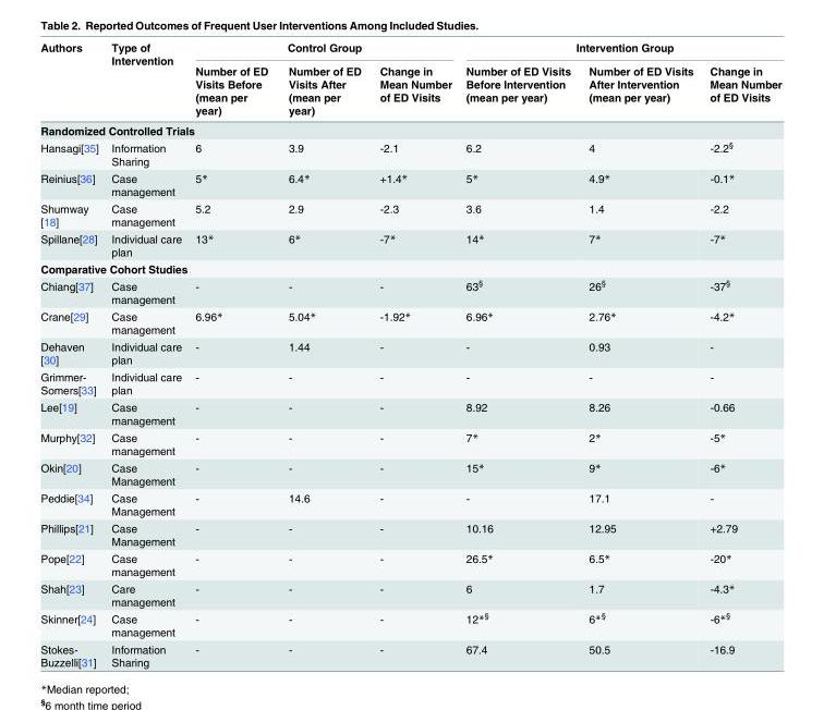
<table><thead><tr><td rowspan="2">Authors</td><td rowspan="2">Type of Intervention</td><td colspan="3">Control Group</td><td colspan="3">Intervention Group</td></tr><tr><td>Number of ED Visits Before (mean per year)</td><td>Number of ED Visits After (mean per year)</td><td>Change in Mean Number of ED Visits</td><td>Number of ED Visits Before Intervention (mean per year)</td><td>Number of ED Visits After Intervention (mean per year)</td><td>Change in Mean Number of ED Visits</td></tr></thead><tbody><tr><td colspan="8">Randomized Controlled Trials</td></tr><tr><td>Hansagi[35]</td><td>Information Sharing</td><td>6</td><td>3.9</td><td>-2.1</td><td>6.2</td><td>4</td><td>-2.2<sup>§</sup></td></tr><tr><td>Reinius[36]</td><td>Case management</td><td>5*</td><td>6.4*</td><td>+1.4*</td><td>5*</td><td>4.9*</td><td>-0.1*</td></tr><tr><td>Shumway [18]</td><td>Case management</td><td>5.2</td><td>2.9</td><td>-2.3</td><td>3.6</td><td>1.4</td><td>-2.2</td></tr><tr><td>Spillane[28]</td><td>Individual care plan</td><td>13*</td><td>6*</td><td>-7*</td><td>14*</td><td>7*</td><td>-7*</td></tr><tr><td colspan="8">Comparative Cohort Studies</td></tr><tr><td>Chiang[37]</td><td>Case management</td><td>-</td><td>-</td><td>-</td><td>63<sup>§</sup></td><td>26<sup>§</sup></td><td>-37<sup>§</sup></td></tr><tr><td>Crane[29]</td><td>Case management</td><td>6.96*</td><td>5.04*</td><td>-1.92*</td><td>6.96*</td><td>2.76*</td><td>-4.2*</td></tr><tr><td>Dehaven [30]</td><td>Individual care plan</td><td>-</td><td>1.44</td><td>-</td><td>-</td><td>0.93</td><td>-</td></tr><tr><td>Grimmer- Somers[33]</td><td>Individual care plan</td><td>-</td><td>-</td><td>-</td><td>-</td><td>-</td><td>-</td></tr><tr><td>Lee[19]</td><td>Case management</td><td>-</td><td>-</td><td>-</td><td>8.92</td><td>8.26</td><td>-0.66</td></tr><tr><td>Murphy[32]</td><td>Case management</td><td>-</td><td>-</td><td>-</td><td>7*</td><td>2*</td><td>-5*</td></tr><tr><td>Okin[20]</td><td>Case Management</td><td>-</td><td>-</td><td>-</td><td>15*</td><td>9*</td><td>-6*</td></tr><tr><td>Peddie[34]</td><td>Case Management</td><td>-</td><td>14.6</td><td>-</td><td>-</td><td>17.1</td><td>-</td></tr><tr><td>Phillips[21]</td><td>Case Management</td><td>-</td><td>-</td><td>-</td><td>10.16</td><td>12.95</td><td>+2.79</td></tr><tr><td>Pope[22]</td><td>Case management</td><td>-</td><td>-</td><td>-</td><td>26.5*</td><td>6.5*</td><td>-20*</td></tr><tr><td>Shah[23]</td><td>Care management</td><td>-</td><td>-</td><td>-</td><td>6</td><td>1.7</td><td>-4.3*</td></tr><tr><td>Skinner[24]</td><td>Case management</td><td>-</td><td>-</td><td>-</td><td>12*<sup>§</sup></td><td>6*<sup>§</sup></td><td>-6*<sup>§</sup></td></tr><tr><td>Stokes- Buzzelli[31]</td><td>Information Sharing</td><td>-</td><td>-</td><td>-</td><td>67.4</td><td>50.5</td><td>-16.9</td></tr></tbody></table>